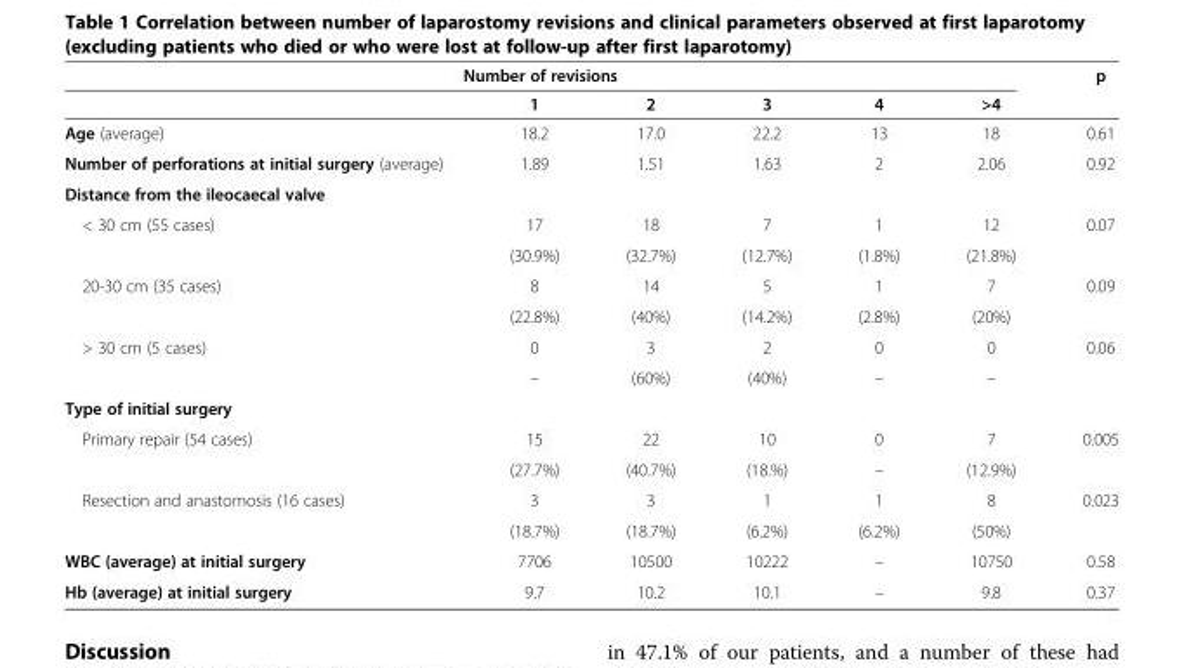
<table><thead><tr><td colspan="6">Number of revisions</td><td rowspan="2">p</td></tr><tr><td></td><td>1</td><td>2</td><td>3</td><td>4</td><td>&gt;4</td></tr></thead><tbody><tr><td>Age (average)</td><td>18.2</td><td>17.0</td><td>22.2</td><td>13</td><td>18</td><td>0.61</td></tr><tr><td>Number of perforations at initial surgery (average)</td><td>1.89</td><td>1.51</td><td>1.63</td><td>2</td><td>2.06</td><td>0.92</td></tr><tr><td colspan="7">Distance from the ileocaecal valve</td></tr><tr><td rowspan="2">&lt; 30 cm (55 cases)</td><td>17</td><td>18</td><td>7</td><td>1</td><td>12</td><td>0.07</td></tr><tr><td>(30.9%)</td><td>(32.7%)</td><td>(12.7%)</td><td>(1.8%)</td><td>(21.8%)</td><td></td></tr><tr><td rowspan="2">20-30 cm (35 cases)</td><td>8</td><td>14</td><td>5</td><td>1</td><td>7</td><td rowspan="2">0.09</td></tr><tr><td>(22.8%)</td><td>(40%)</td><td>(14.2%)</td><td>(2.8%)</td><td>(20%)</td></tr><tr><td rowspan="2">&gt; 30 cm (5 cases)</td><td>0</td><td>3</td><td>2</td><td>0</td><td>0</td><td rowspan="2">0.06</td></tr><tr><td>–</td><td>(60%)</td><td>(40%)</td><td>–</td><td>–</td></tr><tr><td colspan="7">Type of initial surgery</td></tr><tr><td rowspan="2">Primary repair (54 cases)</td><td>15</td><td>22</td><td>10</td><td>0</td><td>7</td><td rowspan="2">0.005</td></tr><tr><td>(27.7%)</td><td>(40.7%)</td><td>(18.%)</td><td>–</td><td>(12.9%)</td></tr><tr><td rowspan="2">Resection and anastomosis (16 cases)</td><td>3</td><td>3</td><td>1</td><td>1</td><td>8</td><td rowspan="2">0.023</td></tr><tr><td>(18.7%)</td><td>(18.7%)</td><td>(6.2%)</td><td>(6.2%)</td><td>(50%)</td></tr><tr><td>WBC (average) at initial surgery</td><td>7706</td><td>10500</td><td>10222</td><td>–</td><td>10750</td><td>0.58</td></tr><tr><td>Hb (average) at initial surgery</td><td>9.7</td><td>10.2</td><td>10.1</td><td>–</td><td>9.8</td><td>0.37</td></tr></tbody></table>